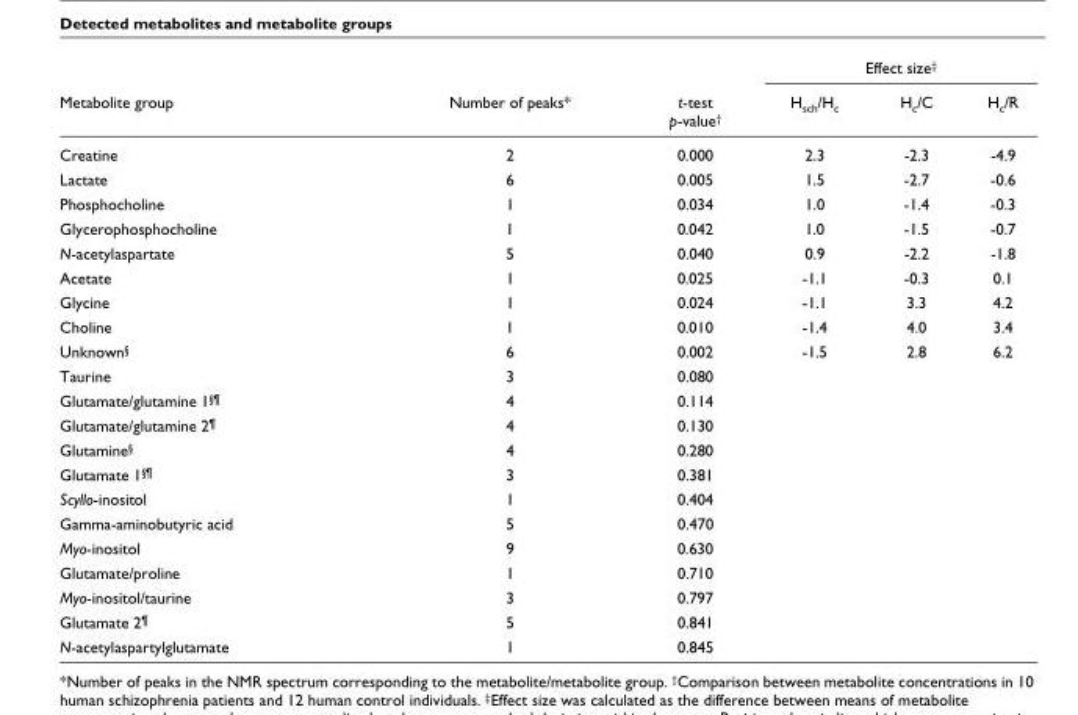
<table><thead><tr><td rowspan="2">Metabolite group</td><td rowspan="2">Number of peaks*</td><td rowspan="2">t-test p-value<sup>†</sup></td><td colspan="3">Effect size<sup>‡</sup></td></tr><tr><td>H<sub>sch</sub>/H<sub>c</sub></td><td>H<sub>c</sub>/C</td><td>H<sub>c</sub>/R</td></tr></thead><tbody><tr><td>Creatine</td><td>2</td><td>0.000</td><td>2.3</td><td>-2.3</td><td>-4.9</td></tr><tr><td>Lactate</td><td>6</td><td>0.005</td><td>1.5</td><td>-2.7</td><td>-0.6</td></tr><tr><td>Phosphocholine</td><td>1</td><td>0.034</td><td>1.0</td><td>-1.4</td><td>-0.3</td></tr><tr><td>Glycerophosphocholine</td><td>1</td><td>0.042</td><td>1.0</td><td>-1.5</td><td>-0.7</td></tr><tr><td>N-acetylaspartate</td><td>5</td><td>0.040</td><td>0.9</td><td>-2.2</td><td>-1.8</td></tr><tr><td>Acetate</td><td>1</td><td>0.025</td><td>-1.1</td><td>-0.3</td><td>0.1</td></tr><tr><td>Glycine</td><td>1</td><td>0.024</td><td>-1.1</td><td>3.3</td><td>4.2</td></tr><tr><td>Choline</td><td>1</td><td>0.010</td><td>-1.4</td><td>4.0</td><td>3.4</td></tr><tr><td>Unknown<sup>§</sup></td><td>6</td><td>0.002</td><td>-1.5</td><td>2.8</td><td>6.2</td></tr><tr><td>Taurine</td><td>3</td><td>0.080</td><td></td><td></td><td></td></tr><tr><td>Glutamate/glutamine 1<sup>§¶</sup></td><td>4</td><td>0.114</td><td></td><td></td><td></td></tr><tr><td>Glutamate/glutamine 2<sup>¶</sup></td><td>4</td><td>0.130</td><td></td><td></td><td></td></tr><tr><td>Glutamine<sup>§</sup></td><td>4</td><td>0.280</td><td></td><td></td><td></td></tr><tr><td>Glutamate 1<sup>§¶</sup></td><td>3</td><td>0.381</td><td></td><td></td><td></td></tr><tr><td>Scyllo-inositol</td><td>1</td><td>0.404</td><td></td><td></td><td></td></tr><tr><td>Gamma-aminobutyric acid</td><td>5</td><td>0.470</td><td></td><td></td><td></td></tr><tr><td>Myo-inositol</td><td>9</td><td>0.630</td><td></td><td></td><td></td></tr><tr><td>Glutamate/proline</td><td>1</td><td>0.710</td><td></td><td></td><td></td></tr><tr><td>Myo-inositol/taurine</td><td>3</td><td>0.797</td><td></td><td></td><td></td></tr><tr><td>Glutamate 2<sup>¶</sup></td><td>5</td><td>0.841</td><td></td><td></td><td></td></tr><tr><td>N-acetylaspartylglutamate</td><td>1</td><td>0.845</td><td></td><td></td><td></td></tr></tbody></table>